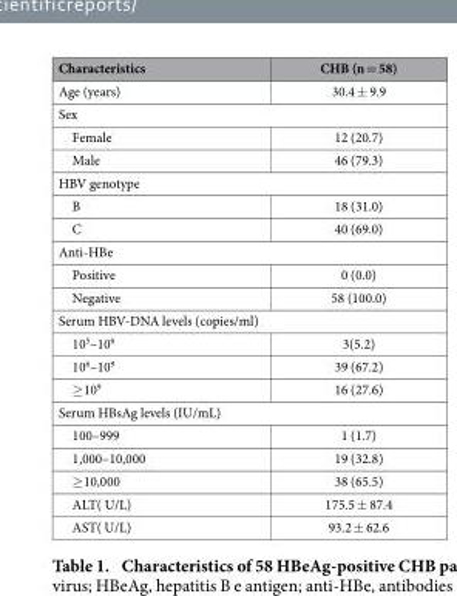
<table><thead><tr><td>Characteristics</td><td>CHB (n = 58)</td></tr></thead><tbody><tr><td>Age (years)</td><td>30.4 ± 9.9</td></tr><tr><td colspan="2">Sex</td></tr><tr><td>Female</td><td>12 (20.7)</td></tr><tr><td>Male</td><td>46 (79.3)</td></tr><tr><td colspan="2">HBV genotype</td></tr><tr><td>B</td><td>18 (31.0)</td></tr><tr><td>C</td><td>40 (69.0)</td></tr><tr><td colspan="2">Anti-HBe</td></tr><tr><td>Positive</td><td>0 (0.0)</td></tr><tr><td>Negative</td><td>58 (100.0)</td></tr><tr><td colspan="2">Serum HBV-DNA levels (copies/ml)</td></tr><tr><td>10<sup>5</sup>–10<sup>6</sup></td><td>3(5.2)</td></tr><tr><td>10<sup>6</sup>–10<sup>9</sup></td><td>39 (67.2)</td></tr><tr><td>≥ 10<sup>9</sup></td><td>16 (27.6)</td></tr><tr><td colspan="2">Serum HBsAg levels (IU/mL)</td></tr><tr><td>100–999</td><td>1 (1.7)</td></tr><tr><td>1,000–10,000</td><td>19 (32.8)</td></tr><tr><td>≥ 10,000</td><td>38 (65.5)</td></tr><tr><td>ALT( U/L)</td><td>175.5 ± 87.4</td></tr><tr><td>AST( U/L)</td><td>93.2 ± 62.6</td></tr></tbody></table>